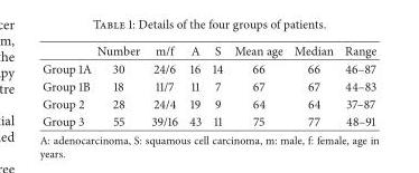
<table><thead><tr><td></td><td>Number</td><td>m/f</td><td>A</td><td>S</td><td>Mean age</td><td>Median</td><td>Range</td></tr></thead><tbody><tr><td>Group 1A</td><td>30</td><td>24/6</td><td>16</td><td>14</td><td>66</td><td>66</td><td>46–87</td></tr><tr><td>Group 1B</td><td>18</td><td>11/7</td><td>11</td><td>7</td><td>67</td><td>67</td><td>44–83</td></tr><tr><td>Group 2</td><td>28</td><td>24/4</td><td>19</td><td>9</td><td>64</td><td>64</td><td>37–87</td></tr><tr><td>Group 3</td><td>55</td><td>39/16</td><td>43</td><td>11</td><td>75</td><td>77</td><td>48–91</td></tr></tbody></table>